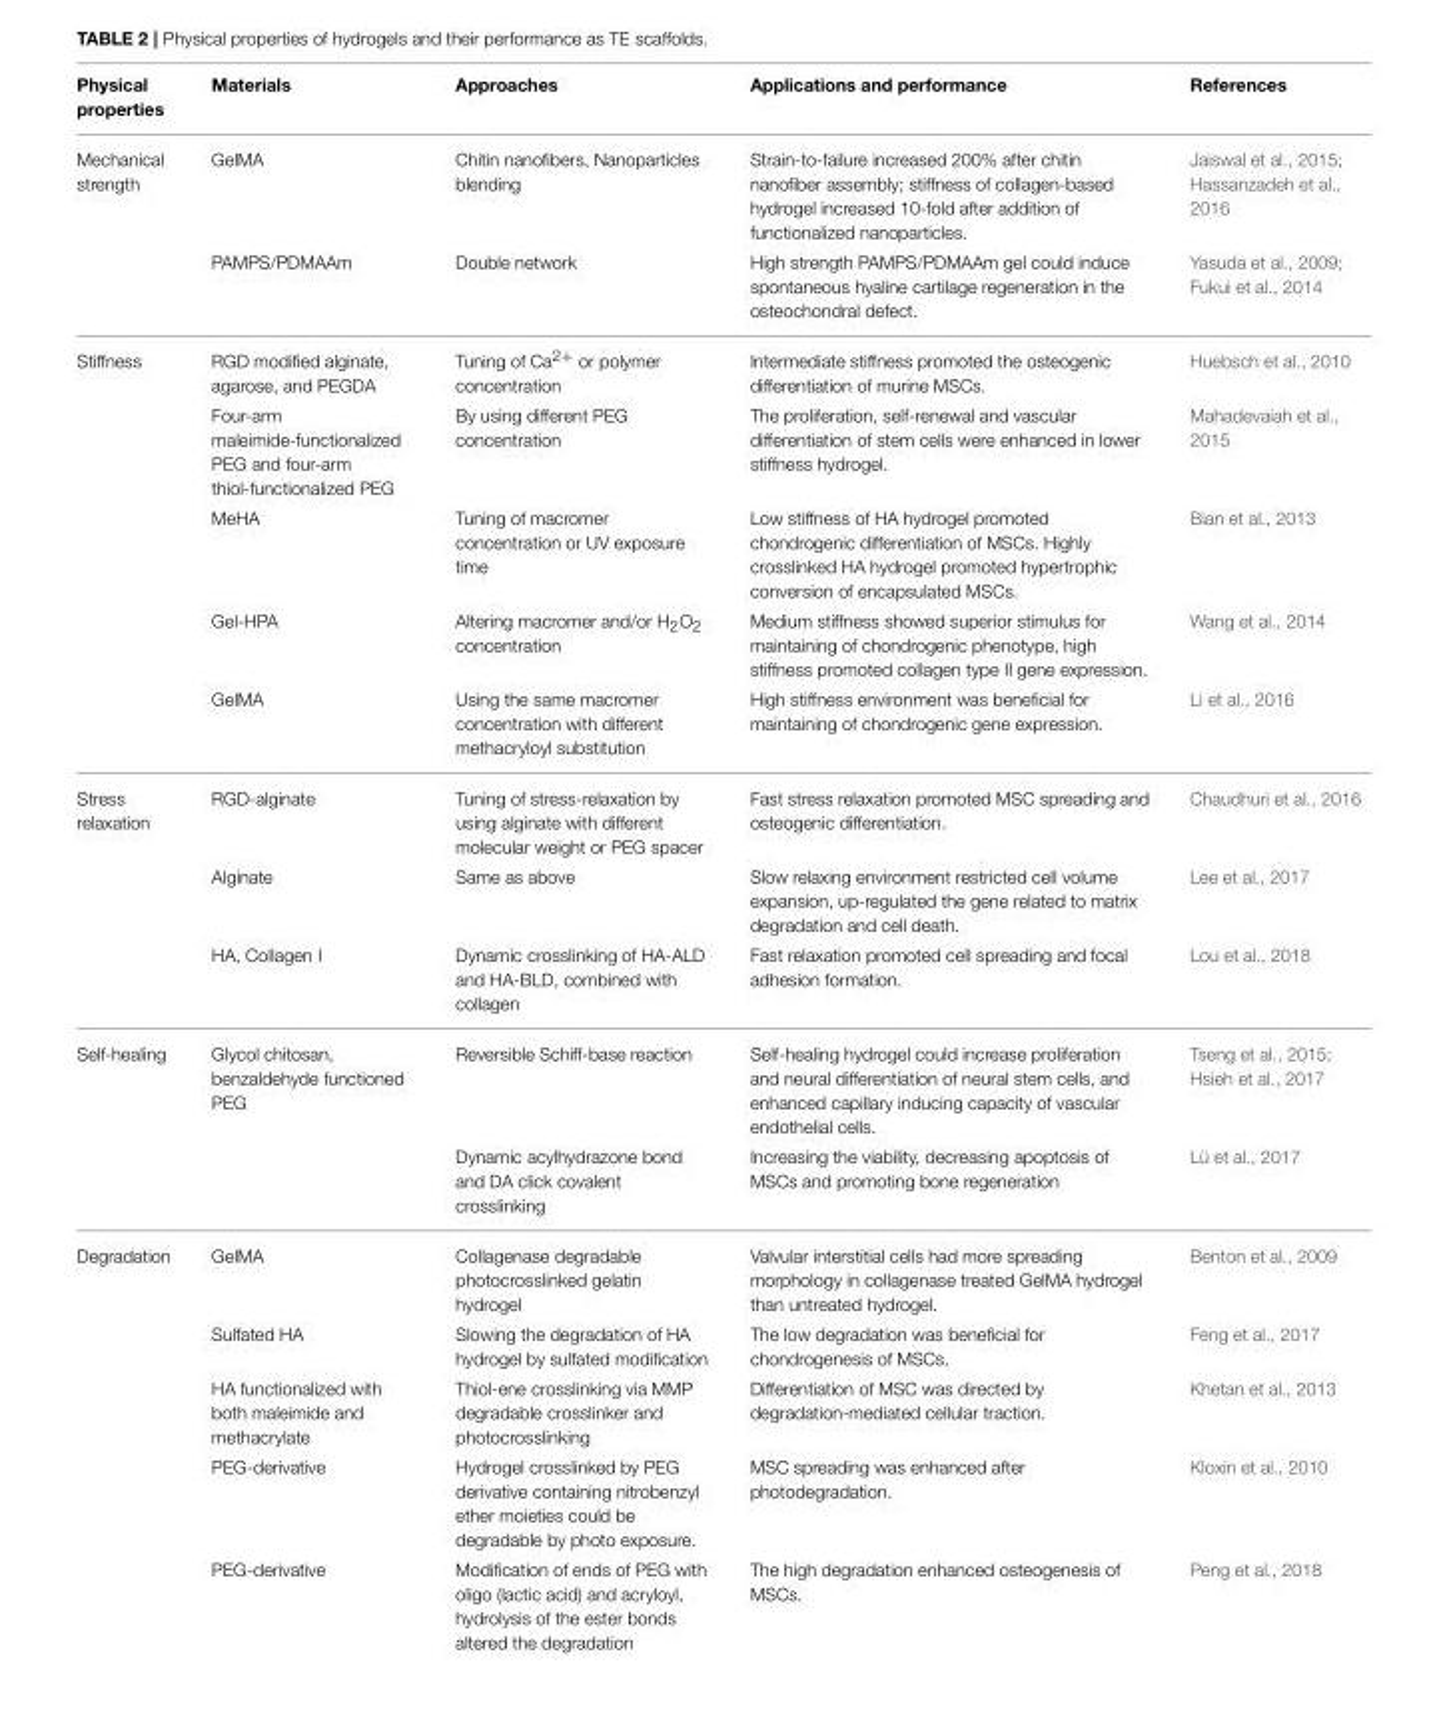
<table><thead><tr><td>Physical properties</td><td>Materials</td><td>Approaches</td><td>Applications and performance</td><td>References</td></tr></thead><tbody><tr><td rowspan="2">Mechanical strength</td><td>GelMA</td><td>Chitin nanofibers, Nanoparticles blending</td><td>Strain-to-failure increased 200% after chitin nanofiber assembly; stiffness of collagen-based hydrogel increased 10-fold after addition of functionalized nanoparticles.</td><td>Jaiswal et al., 2015; Hassanzadeh et al., 2016</td></tr><tr><td>PAMPS/PDMAAm</td><td>Double network</td><td>High strength PAMPS/PDMAAm gel could induce spontaneous hyaline cartilage regeneration in the osteochondral defect.</td><td>Yasuda et al., 2009; Fukui et al., 2014</td></tr><tr><td rowspan="5">Stiffness</td><td>RGD modified alginate, agarose, and PEGDA</td><td>Tuning of Ca<sup>2+</sup> or polymer concentration</td><td>Intermediate stiffness promoted the osteogenic differentiation of murine MSCs.</td><td>Huebsch et al., 2010</td></tr><tr><td>Four-arm maleimide-functionalized PEG and four-arm thiol-functionalized PEG</td><td>By using different PEG concentration</td><td>The proliferation, self-renewal and vascular differentiation of stem cells were enhanced in lower stiffness hydrogel.</td><td>Mahadevaiah et al., 2015</td></tr><tr><td>MeHA</td><td>Tuning of macromer concentration or UV exposure time</td><td>Low stiffness of HA hydrogel promoted chondrogenic differentiation of MSCs. Highly crosslinked HA hydrogel promoted hypertrophic conversion of encapsulated MSCs.</td><td>Bian et al., 2013</td></tr><tr><td>Gel-HPA</td><td>Altering macromer and/or H<sub>2</sub>O<sub>2</sub> concentration</td><td>Medium stiffness showed superior stimulus for maintaining of chondrogenic phenotype, high stiffness promoted collagen type II gene expression.</td><td>Wang et al., 2014</td></tr><tr><td>GelMA</td><td>Using the same macromer concentration with different methacryloyl substitution</td><td>High stiffness environment was beneficial for maintaining of chondrogenic gene expression.</td><td>Li et al., 2016</td></tr><tr><td rowspan="3">Stress relaxation</td><td>RGD-alginate</td><td>Tuning of stress-relaxation by using alginate with different molecular weight or PEG spacer</td><td>Fast stress relaxation promoted MSC spreading and osteogenic differentiation.</td><td>Chaudhuri et al., 2016</td></tr><tr><td>Alginate</td><td>Same as above</td><td>Slow relaxing environment restricted cell volume expansion, up-regulated the gene related to matrix degradation and cell death.</td><td>Lee et al., 2017</td></tr><tr><td>HA, Collagen I</td><td>Dynamic crosslinking of HA-ALD and HA-BLD, combined with collagen</td><td>Fast relaxation promoted cell spreading and focal adhesion formation.</td><td>Lou et al., 2018</td></tr><tr><td rowspan="2">Self-healing</td><td>Glycol chitosan, benzaldehyde functioned PEG</td><td>Reversible Schiff-base reaction</td><td>Self-healing hydrogel could increase proliferation and neural differentiation of neural stem cells, and enhanced capillary inducing capacity of vascular endothelial cells.</td><td>Tseng et al., 2015; Hsieh et al., 2017</td></tr><tr><td></td><td>Dynamic acylhydrazone bond and DA click covalent crosslinking</td><td>Increasing the viability, decreasing apoptosis of MSCs and promoting bone regeneration</td><td>Lü et al., 2017</td></tr><tr><td rowspan="5">Degradation</td><td>GelMA</td><td>Collagenase degradable photocrosslinked gelatin hydrogel</td><td>Valvular interstitial cells had more spreading morphology in collagenase treated GelMA hydrogel than untreated hydrogel.</td><td>Benton et al., 2009</td></tr><tr><td>Sulfated HA</td><td>Slowing the degradation of HA hydrogel by sulfated modification</td><td>The low degradation was beneficial for chondrogenesis of MSCs.</td><td>Feng et al., 2017</td></tr><tr><td>HA functionalized with both maleimide and methacrylate</td><td>Thiol-ene crosslinking via MMP degradable crosslinker and photocrosslinking</td><td>Differentiation of MSC was directed by degradation-mediated cellular traction.</td><td>Khetan et al., 2013</td></tr><tr><td>PEG-derivative</td><td>Hydrogel crosslinked by PEG derivative containing nitrobenzyl ether moieties could be degradable by photo exposure.</td><td>MSC spreading was enhanced after photodegradation.</td><td>Kloxin et al., 2010</td></tr><tr><td>PEG-derivative</td><td>Modification of ends of PEG with oligo (lactic acid) and acryloyl, hydrolysis of the ester bonds altered the degradation</td><td>The high degradation enhanced osteogenesis of MSCs.</td><td>Peng et al., 2018</td></tr></tbody></table>